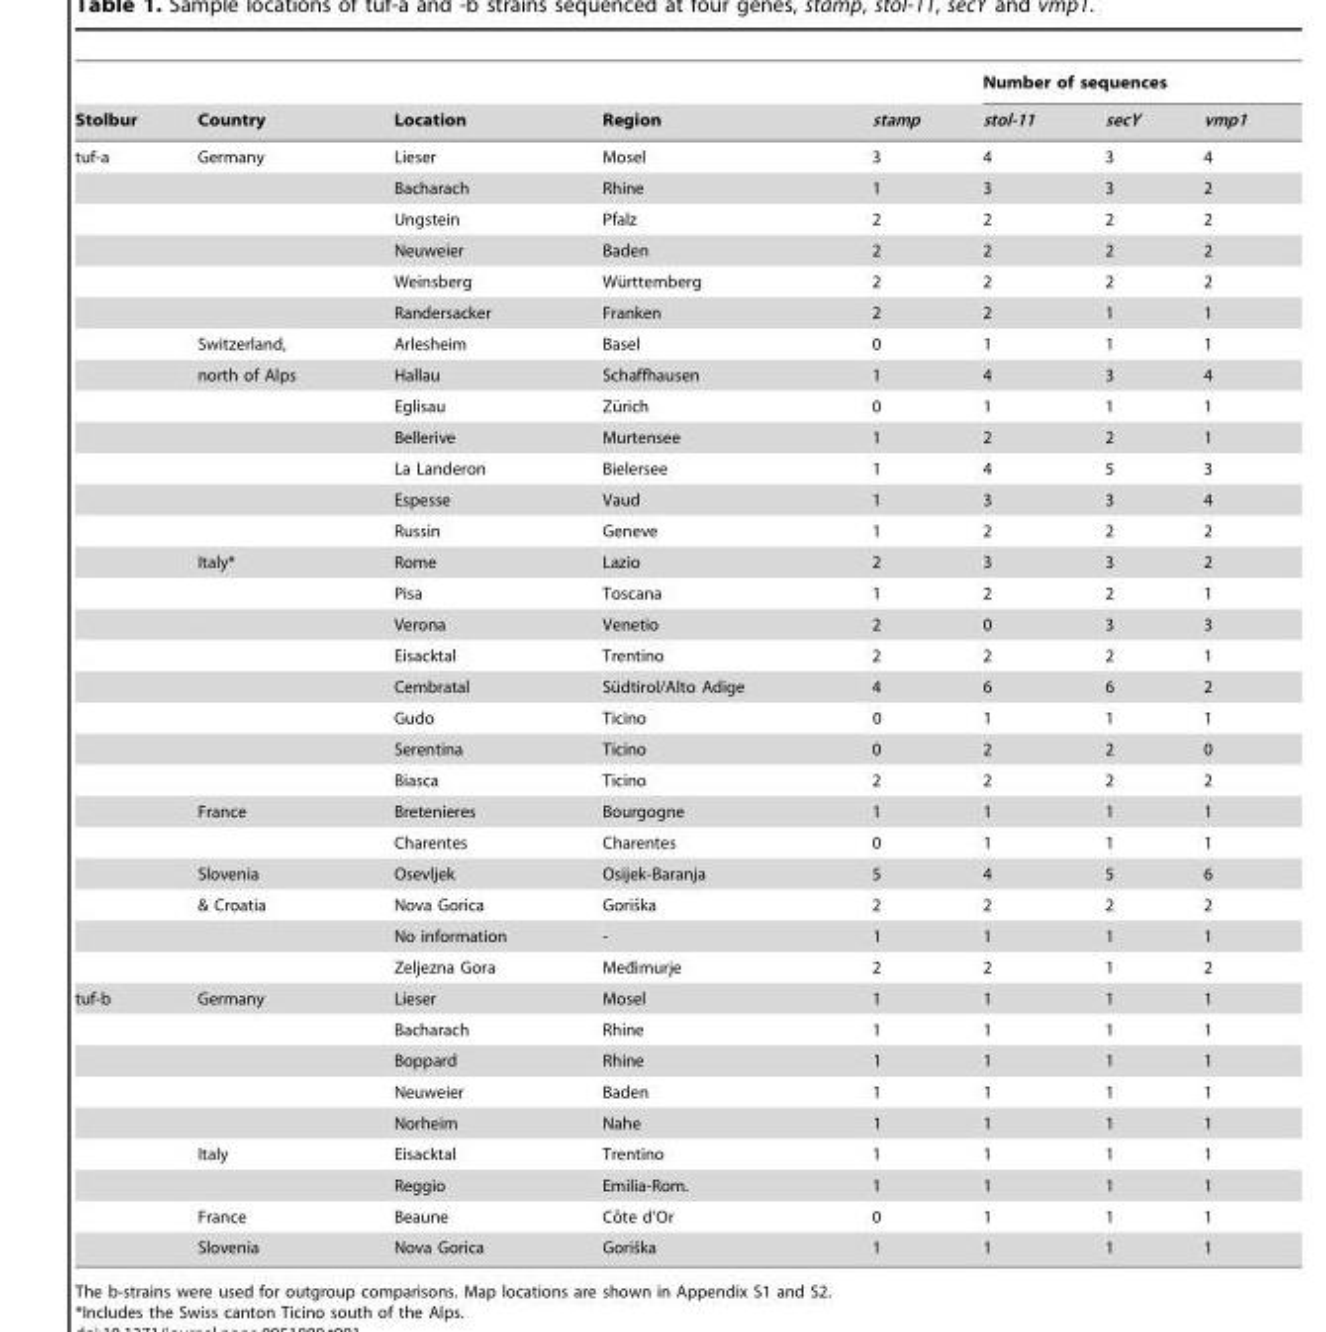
<table><thead><tr><td rowspan="2">Stolbur</td><td rowspan="2">Country</td><td rowspan="2">Location</td><td rowspan="2">Region</td><td rowspan="2">stamp</td><td colspan="3">Number of sequences</td></tr><tr><td>stol-11</td><td>secY</td><td>vmp1</td></tr></thead><tbody><tr><td rowspan="27">tuf-a</td><td>Germany</td><td>Lieser</td><td>Mosel</td><td>3</td><td>4</td><td>3</td><td>4</td></tr><tr><td></td><td>Bacharach</td><td>Rhine</td><td>1</td><td>3</td><td>3</td><td>2</td></tr><tr><td></td><td>Ungstein</td><td>Pfalz</td><td>2</td><td>2</td><td>2</td><td>2</td></tr><tr><td></td><td>Neuweier</td><td>Baden</td><td>2</td><td>2</td><td>2</td><td>2</td></tr><tr><td></td><td>Weinsberg</td><td>Wu¨rttemberg</td><td>2</td><td>2</td><td>2</td><td>2</td></tr><tr><td></td><td>Randersacker</td><td>Franken</td><td>2</td><td>2</td><td>1</td><td>1</td></tr><tr><td>Switzerland,</td><td>Arlesheim</td><td>Basel</td><td>0</td><td>1</td><td>1</td><td>1</td></tr><tr><td>north of Alps</td><td>Hallau</td><td>Schaffhausen</td><td>1</td><td>4</td><td>3</td><td>4</td></tr><tr><td></td><td>Eglisau</td><td>Zu¨rich</td><td>0</td><td>1</td><td>1</td><td>1</td></tr><tr><td></td><td>Bellerive</td><td>Murtensee</td><td>1</td><td>2</td><td>2</td><td>1</td></tr><tr><td></td><td>La Landeron</td><td>Bielersee</td><td>1</td><td>4</td><td>5</td><td>3</td></tr><tr><td></td><td>Espesse</td><td>Vaud</td><td>1</td><td>3</td><td>3</td><td>4</td></tr><tr><td></td><td>Russin</td><td>Geneve</td><td>1</td><td>2</td><td>2</td><td>2</td></tr><tr><td>Italy*</td><td>Rome</td><td>Lazio</td><td>2</td><td>3</td><td>3</td><td>2</td></tr><tr><td></td><td>Pisa</td><td>Toscana</td><td>1</td><td>2</td><td>2</td><td>1</td></tr><tr><td></td><td>Verona</td><td>Venetio</td><td>2</td><td>0</td><td>3</td><td>3</td></tr><tr><td></td><td>Eisacktal</td><td>Trentino</td><td>2</td><td>2</td><td>2</td><td>1</td></tr><tr><td></td><td>Cembratal</td><td>Su¨dtirol/Alto Adige</td><td>4</td><td>6</td><td>6</td><td>2</td></tr><tr><td></td><td>Gudo</td><td>Ticino</td><td>0</td><td>1</td><td>1</td><td>1</td></tr><tr><td></td><td>Serentina</td><td>Ticino</td><td>0</td><td>2</td><td>2</td><td>0</td></tr><tr><td></td><td>Biasca</td><td>Ticino</td><td>2</td><td>2</td><td>2</td><td>2</td></tr><tr><td>France</td><td>Bretenieres</td><td>Bourgogne</td><td>1</td><td>1</td><td>1</td><td>1</td></tr><tr><td></td><td>Charentes</td><td>Charentes</td><td>0</td><td>1</td><td>1</td><td>1</td></tr><tr><td>Slovenia</td><td>Osevljek</td><td>Osijek-Baranja</td><td>5</td><td>4</td><td>5</td><td>6</td></tr><tr><td>&amp; Croatia</td><td>Nova Gorica</td><td>Gorisˇka</td><td>2</td><td>2</td><td>2</td><td>2</td></tr><tr><td></td><td>No information</td><td>-</td><td>1</td><td>1</td><td>1</td><td>1</td></tr><tr><td></td><td>Zeljezna Gora</td><td>Med–imurje</td><td>2</td><td>2</td><td>1</td><td>2</td></tr><tr><td rowspan="9">tuf-b</td><td>Germany</td><td>Lieser</td><td>Mosel</td><td>1</td><td>1</td><td>1</td><td>1</td></tr><tr><td></td><td>Bacharach</td><td>Rhine</td><td>1</td><td>1</td><td>1</td><td>1</td></tr><tr><td></td><td>Boppard</td><td>Rhine</td><td>1</td><td>1</td><td>1</td><td>1</td></tr><tr><td></td><td>Neuweier</td><td>Baden</td><td>1</td><td>1</td><td>1</td><td>1</td></tr><tr><td></td><td>Norheim</td><td>Nahe</td><td>1</td><td>1</td><td>1</td><td>1</td></tr><tr><td>Italy</td><td>Eisacktal</td><td>Trentino</td><td>1</td><td>1</td><td>1</td><td>1</td></tr><tr><td></td><td>Reggio</td><td>Emilia-Rom.</td><td>1</td><td>1</td><td>1</td><td>1</td></tr><tr><td>France</td><td>Beaune</td><td>Coˆte d’Or</td><td>0</td><td>1</td><td>1</td><td>1</td></tr><tr><td>Slovenia</td><td>Nova Gorica</td><td>Gorisˇka</td><td>1</td><td>1</td><td>1</td><td>1</td></tr></tbody></table>